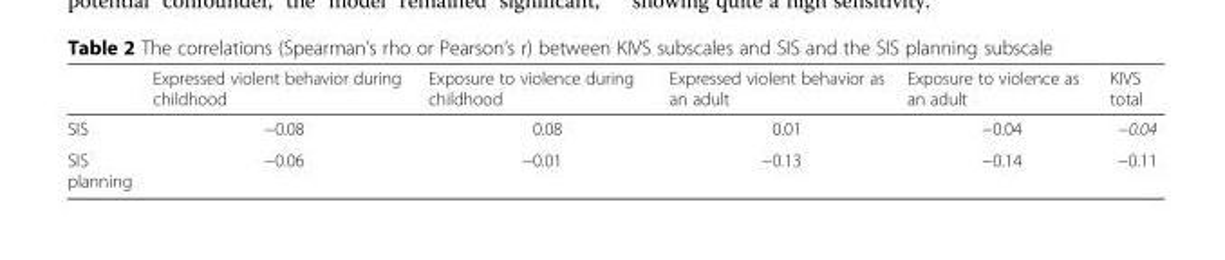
<table><thead><tr><td></td><td>Expressed violent behavior during childhood</td><td>Exposure to violence during childhood</td><td>Expressed violent behavior as an adult</td><td>Exposure to violence as an adult</td><td>KIVS total</td></tr></thead><tbody><tr><td>SIS</td><td>−0.08</td><td>0.08</td><td>0.01</td><td>−0.04</td><td>−0.04</td></tr><tr><td>SIS planning</td><td>−0.06</td><td>−0.01</td><td>−0.13</td><td>−0.14</td><td>−0.11</td></tr></tbody></table>